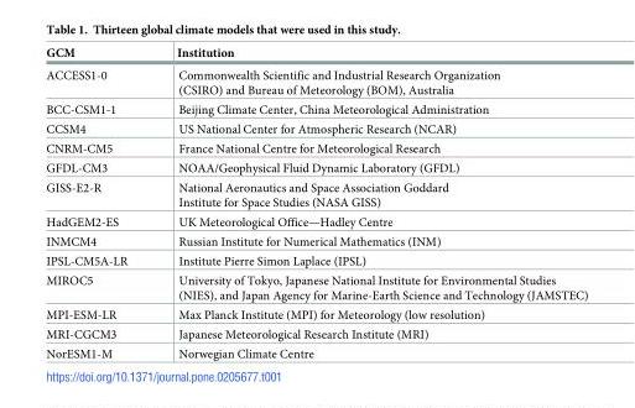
<table><thead><tr><td>GCM</td><td>Institution</td></tr></thead><tbody><tr><td>ACCESS1-0</td><td>Commonwealth Scientific and Industrial Research Organization (CSIRO) and Bureau of Meteorology (BOM), Australia</td></tr><tr><td>BCC-CSM1-1</td><td>Beijing Climate Center, China Meteorological Administration</td></tr><tr><td>CCSM4</td><td>US National Center for Atmospheric Research (NCAR)</td></tr><tr><td>CNRM-CM5</td><td>France National Centre for Meteorological Research</td></tr><tr><td>GFDL-CM3</td><td>NOAA/Geophysical Fluid Dynamic Laboratory (GFDL)</td></tr><tr><td>GISS-E2-R</td><td>National Aeronautics and Space Association Goddard Institute for Space Studies (NASA GISS)</td></tr><tr><td>HadGEM2-ES</td><td>UK Meteorological Office—Hadley Centre</td></tr><tr><td>INMCM4</td><td>Russian Institute for Numerical Mathematics (INM)</td></tr><tr><td>IPSL-CM5A-LR</td><td>Institute Pierre Simon Laplace (IPSL)</td></tr><tr><td>MIROC5</td><td>University of Tokyo, Japanese National Institute for Environmental Studies (NIES), and Japan Agency for Marine-Earth Science and Technology (JAMSTEC)</td></tr><tr><td>MPI-ESM-LR</td><td>Max Planck Institute (MPI) for Meteorology (low resolution)</td></tr><tr><td>MRI-CGCM3</td><td>Japanese Meteorological Research Institute (MRI)</td></tr><tr><td>NorESM1-M</td><td>Norwegian Climate Centre</td></tr></tbody></table>